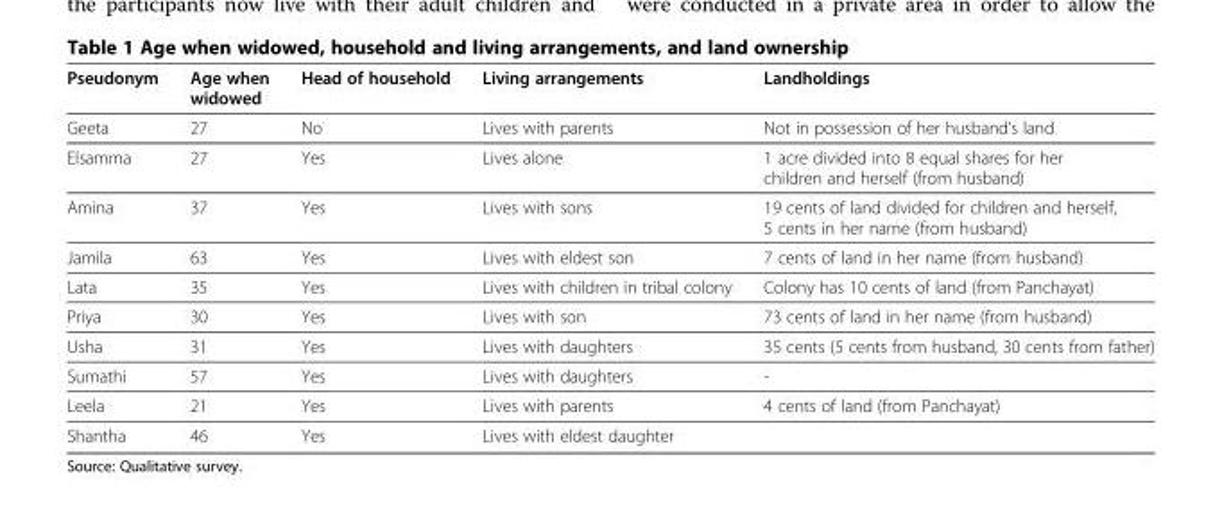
<table><thead><tr><td>Pseudonym</td><td>Age when widowed</td><td>Head of household</td><td>Living arrangements</td><td>Landholdings</td></tr></thead><tbody><tr><td>Geeta</td><td>27</td><td>No</td><td>Lives with parents</td><td>Not in possession of her husband’s land</td></tr><tr><td>Elsamma</td><td>27</td><td>Yes</td><td>Lives alone</td><td>1 acre divided into 8 equal shares for her children and herself (from husband)</td></tr><tr><td>Amina</td><td>37</td><td>Yes</td><td>Lives with sons</td><td>19 cents of land divided for children and herself, 5 cents in her name (from husband)</td></tr><tr><td>Jamila</td><td>63</td><td>Yes</td><td>Lives with eldest son</td><td>7 cents of land in her name (from husband)</td></tr><tr><td>Lata</td><td>35</td><td>Yes</td><td>Lives with children in tribal colony</td><td>Colony has 10 cents of land (from Panchayat)</td></tr><tr><td>Priya</td><td>30</td><td>Yes</td><td>Lives with son</td><td>73 cents of land in her name (from husband)</td></tr><tr><td>Usha</td><td>31</td><td>Yes</td><td>Lives with daughters</td><td>35 cents (5 cents from husband, 30 cents from father)</td></tr><tr><td>Sumathi</td><td>57</td><td>Yes</td><td>Lives with daughters</td><td>-</td></tr><tr><td>Leela</td><td>21</td><td>Yes</td><td>Lives with parents</td><td>4 cents of land (from Panchayat)</td></tr><tr><td>Shantha</td><td>46</td><td>Yes</td><td>Lives with eldest daughter</td><td></td></tr></tbody></table>